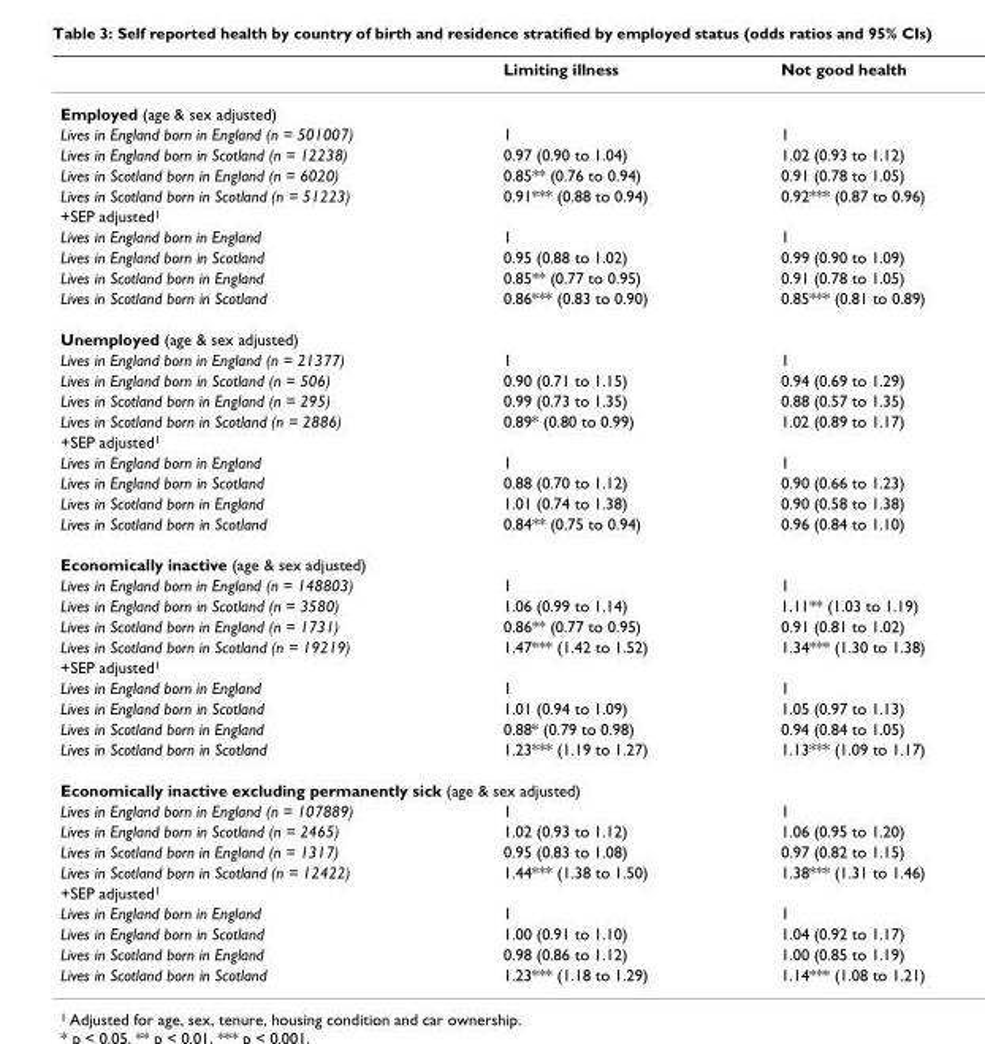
<table><thead><tr><td></td><td>Limiting illness</td><td>Not good health</td></tr></thead><tbody><tr><td colspan="3">Employed (age &amp; sex adjusted)</td></tr><tr><td>Lives in England born in England (n = 501007)</td><td>1</td><td>1</td></tr><tr><td>Lives in England born in Scotland (n = 12238)</td><td>0.97 (0.90 to 1.04)</td><td>1.02 (0.93 to 1.12)</td></tr><tr><td>Lives in Scotland born in England (n = 6020)</td><td>0.85** (0.76 to 0.94)</td><td>0.91 (0.78 to 1.05)</td></tr><tr><td>Lives in Scotland born in Scotland (n = 51223)</td><td>0.91*** (0.88 to 0.94)</td><td>0.92*** (0.87 to 0.96)</td></tr><tr><td colspan="3">+SEP adjusted1</td></tr><tr><td>Lives in England born in England</td><td>1</td><td>1</td></tr><tr><td>Lives in England born in Scotland</td><td>0.95 (0.88 to 1.02)</td><td>0.99 (0.90 to 1.09)</td></tr><tr><td>Lives in Scotland born in England</td><td>0.85** (0.77 to 0.95)</td><td>0.91 (0.78 to 1.05)</td></tr><tr><td>Lives in Scotland born in Scotland</td><td>0.86*** (0.83 to 0.90)</td><td>0.85*** (0.81 to 0.89)</td></tr><tr><td colspan="3">Unemployed (age &amp; sex adjusted)</td></tr><tr><td>Lives in England born in England (n = 21377)</td><td>1</td><td>1</td></tr><tr><td>Lives in England born in Scotland (n = 506)</td><td>0.90 (0.71 to 1.15)</td><td>0.94 (0.69 to 1.29)</td></tr><tr><td>Lives in Scotland born in England (n = 295)</td><td>0.99 (0.73 to 1.35)</td><td>0.88 (0.57 to 1.35)</td></tr><tr><td>Lives in Scotland born in Scotland (n = 2886)</td><td>0.89* (0.80 to 0.99)</td><td>1.02 (0.89 to 1.17)</td></tr><tr><td colspan="3">+SEP adjusted1</td></tr><tr><td>Lives in England born in England</td><td>1</td><td>1</td></tr><tr><td>Lives in England born in Scotland</td><td>0.88 (0.70 to 1.12)</td><td>0.90 (0.66 to 1.23)</td></tr><tr><td>Lives in Scotland born in England</td><td>1.01 (0.74 to 1.38)</td><td>0.90 (0.58 to 1.38)</td></tr><tr><td>Lives in Scotland born in Scotland</td><td>0.84** (0.75 to 0.94)</td><td>0.96 (0.84 to 1.10)</td></tr><tr><td colspan="3">Economically inactive (age &amp; sex adjusted)</td></tr><tr><td>Lives in England born in England (n = 148803)</td><td>1</td><td>1</td></tr><tr><td>Lives in England born in Scotland (n = 3580)</td><td>1.06 (0.99 to 1.14)</td><td>1.11** (1.03 to 1.19)</td></tr><tr><td>Lives in Scotland born in England (n = 1731)</td><td>0.86** (0.77 to 0.95)</td><td>0.91 (0.81 to 1.02)</td></tr><tr><td>Lives in Scotland born in Scotland (n = 19219)</td><td>1.47*** (1.42 to 1.52)</td><td>1.34*** (1.30 to 1.38)</td></tr><tr><td colspan="3">+SEP adjusted1</td></tr><tr><td>Lives in England born in England</td><td>1</td><td>1</td></tr><tr><td>Lives in England born in Scotland</td><td>1.01 (0.94 to 1.09)</td><td>1.05 (0.97 to 1.13)</td></tr><tr><td>Lives in Scotland born in England</td><td>0.88* (0.79 to 0.98)</td><td>0.94 (0.84 to 1.05)</td></tr><tr><td>Lives in Scotland born in Scotland</td><td>1.23*** (1.19 to 1.27)</td><td>1.13*** (1.09 to 1.17)</td></tr><tr><td colspan="3">Economically inactive excluding permanently sick (age &amp; sex adjusted)</td></tr><tr><td>Lives in England born in England (n = 107889)</td><td>1</td><td>1</td></tr><tr><td>Lives in England born in Scotland (n = 2465)</td><td>1.02 (0.93 to 1.12)</td><td>1.06 (0.95 to 1.20)</td></tr><tr><td>Lives in Scotland born in England (n = 1317)</td><td>0.95 (0.83 to 1.08)</td><td>0.97 (0.82 to 1.15)</td></tr><tr><td>Lives in Scotland born in Scotland (n = 12422)</td><td>1.44*** (1.38 to 1.50)</td><td>1.38*** (1.31 to 1.46)</td></tr><tr><td colspan="3">+SEP adjusted1</td></tr><tr><td>Lives in England born in England</td><td>1</td><td>1</td></tr><tr><td>Lives in England born in Scotland</td><td>1.00 (0.91 to 1.10)</td><td>1.04 (0.92 to 1.17)</td></tr><tr><td>Lives in Scotland born in England</td><td>0.98 (0.86 to 1.12)</td><td>1.00 (0.85 to 1.19)</td></tr><tr><td>Lives in Scotland born in Scotland</td><td>1.23*** (1.18 to 1.29)</td><td>1.14*** (1.08 to 1.21)</td></tr></tbody></table>